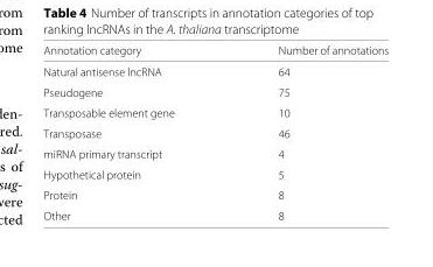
<table><thead><tr><td>Annotation category</td><td>Number of annotations</td></tr></thead><tbody><tr><td>Natural antisense lncRNA</td><td>64</td></tr><tr><td>Pseudogene</td><td>75</td></tr><tr><td>Transposable element gene</td><td>10</td></tr><tr><td>Transposase</td><td>46</td></tr><tr><td>miRNA primary transcript</td><td>4</td></tr><tr><td>Hypothetical protein</td><td>5</td></tr><tr><td>Protein</td><td>8</td></tr><tr><td>Other</td><td>8</td></tr></tbody></table>